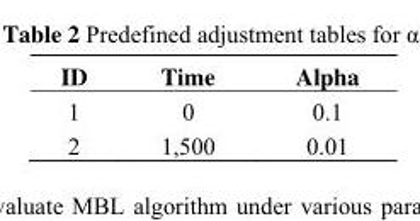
<table><thead><tr><td>ID</td><td>Time</td><td>Alpha</td></tr></thead><tbody><tr><td>1</td><td>0</td><td>0.1</td></tr><tr><td>2</td><td>1,500</td><td>0.01</td></tr></tbody></table>